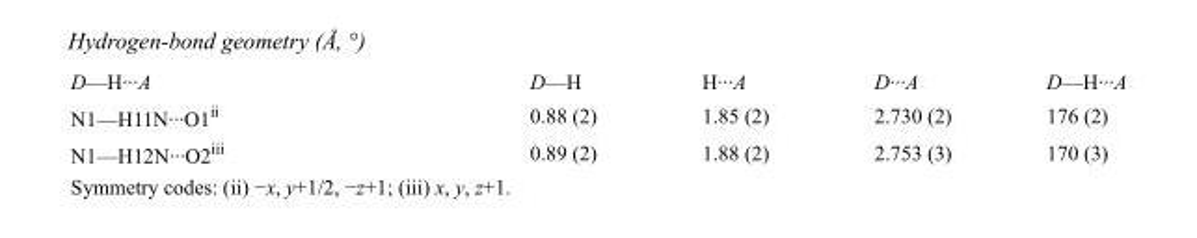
<table><tbody><tr><td>D—H···A</td><td>D—H</td><td>H···A</td><td>D···A</td><td>D—H···A</td></tr><tr><td>N1—H11N···O1<sup>ii</sup></td><td>0.88 (2)</td><td>1.85 (2)</td><td>2.730 (2)</td><td>176 (2)</td></tr><tr><td>N1—H12N···O2<sup>iii</sup></td><td>0.89 (2)</td><td>1.88 (2)</td><td>2.753 (3)</td><td>170 (3)</td></tr></tbody></table>